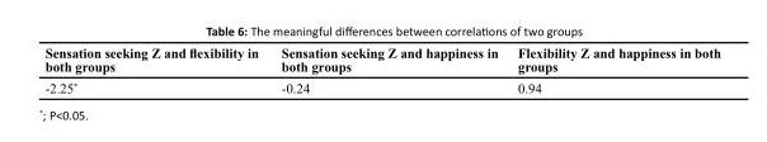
<table><thead><tr><td>Sensation seeking Z and flexibility in both groups</td><td>Sensation seeking Z and happiness in both groups</td><td>Flexibility Z and happiness in both groups</td></tr></thead><tbody><tr><td>-2.25*</td><td>-0.24</td><td>0.94</td></tr></tbody></table>